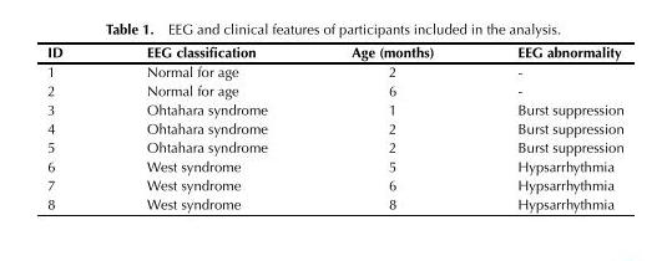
<table><thead><tr><td>ID</td><td>EEG classification</td><td>Age (months)</td><td>EEG abnormality</td></tr></thead><tbody><tr><td>1</td><td>Normal for age</td><td>2</td><td>-</td></tr><tr><td>2</td><td>Normal for age</td><td>6</td><td>-</td></tr><tr><td>3</td><td>Ohtahara syndrome</td><td>1</td><td>Burst suppression</td></tr><tr><td>4</td><td>Ohtahara syndrome</td><td>2</td><td>Burst suppression</td></tr><tr><td>5</td><td>Ohtahara syndrome</td><td>2</td><td>Burst suppression</td></tr><tr><td>6</td><td>West syndrome</td><td>5</td><td>Hypsarrhythmia</td></tr><tr><td>7</td><td>West syndrome</td><td>6</td><td>Hypsarrhythmia</td></tr><tr><td>8</td><td>West syndrome</td><td>8</td><td>Hypsarrhythmia</td></tr></tbody></table>